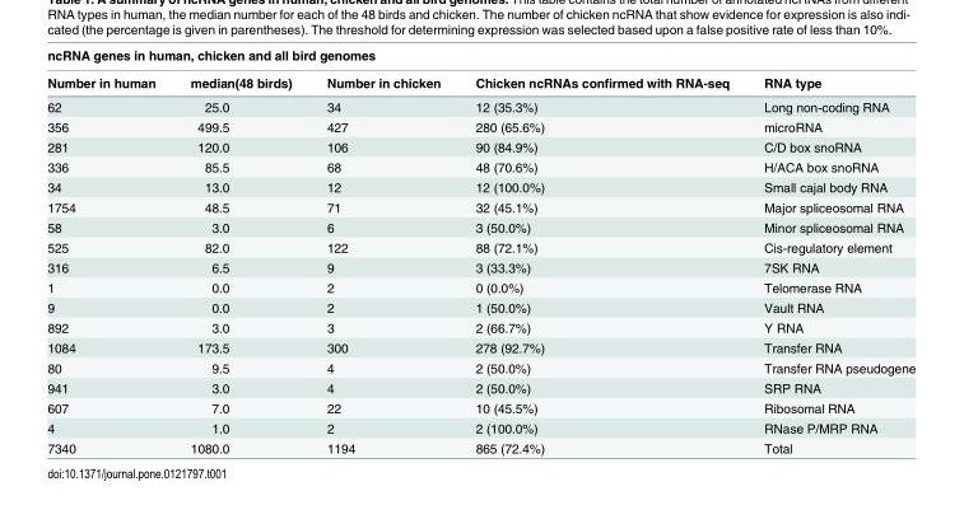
<table><thead><tr><td colspan="5">ncRNA genes in human, chicken and all bird genomes</td></tr><tr><td>Number in human</td><td>median(48 birds)</td><td>Number in chicken</td><td>Chicken ncRNAs confirmed with RNA-seq</td><td>RNA type</td></tr></thead><tbody><tr><td>62</td><td>25.0</td><td>34</td><td>12 (35.3%)</td><td>Long non-coding RNA</td></tr><tr><td>356</td><td>499.5</td><td>427</td><td>280 (65.6%)</td><td>microRNA</td></tr><tr><td>281</td><td>120.0</td><td>106</td><td>90 (84.9%)</td><td>C/D box snoRNA</td></tr><tr><td>336</td><td>85.5</td><td>68</td><td>48 (70.6%)</td><td>H/ACA box snoRNA</td></tr><tr><td>34</td><td>13.0</td><td>12</td><td>12 (100.0%)</td><td>Small cajal body RNA</td></tr><tr><td>1754</td><td>48.5</td><td>71</td><td>32 (45.1%)</td><td>Major spliceosomal RNA</td></tr><tr><td>58</td><td>3.0</td><td>6</td><td>3 (50.0%)</td><td>Minor spliceosomal RNA</td></tr><tr><td>525</td><td>82.0</td><td>122</td><td>88 (72.1%)</td><td>Cis-regulatory element</td></tr><tr><td>316</td><td>6.5</td><td>9</td><td>3 (33.3%)</td><td>7SK RNA</td></tr><tr><td>1</td><td>0.0</td><td>2</td><td>0 (0.0%)</td><td>Telomerase RNA</td></tr><tr><td>9</td><td>0.0</td><td>2</td><td>1 (50.0%)</td><td>Vault RNA</td></tr><tr><td>892</td><td>3.0</td><td>3</td><td>2 (66.7%)</td><td>Y RNA</td></tr><tr><td>1084</td><td>173.5</td><td>300</td><td>278 (92.7%)</td><td>Transfer RNA</td></tr><tr><td>80</td><td>9.5</td><td>4</td><td>2 (50.0%)</td><td>Transfer RNA pseudogene</td></tr><tr><td>941</td><td>3.0</td><td>4</td><td>2 (50.0%)</td><td>SRP RNA</td></tr><tr><td>607</td><td>7.0</td><td>22</td><td>10 (45.5%)</td><td>Ribosomal RNA</td></tr><tr><td>4</td><td>1.0</td><td>2</td><td>2 (100.0%)</td><td>RNase P/MRP RNA</td></tr><tr><td>7340</td><td>1080.0</td><td>1194</td><td>865 (72.4%)</td><td>Total</td></tr></tbody></table>